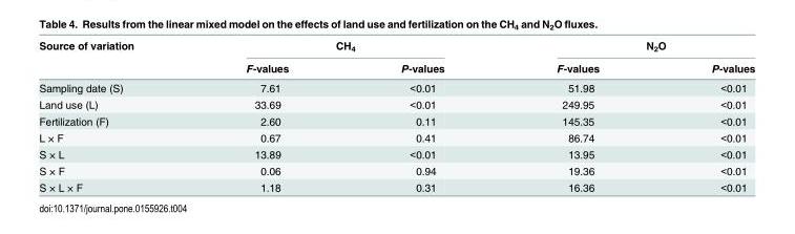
<table><thead><tr><td rowspan="2">Source of variation</td><td colspan="2">CH<sub>4</sub></td><td colspan="2">N<sub>2</sub>O</td></tr><tr><td>F-values</td><td>P-values</td><td>F-values</td><td>P-values</td></tr></thead><tbody><tr><td>Sampling date (S)</td><td>7.61</td><td>&lt;0.01</td><td>51.98</td><td>&lt;0.01</td></tr><tr><td>Land use (L)</td><td>33.69</td><td>&lt;0.01</td><td>249.95</td><td>&lt;0.01</td></tr><tr><td>Fertilization (F)</td><td>2.60</td><td>0.11</td><td>145.35</td><td>&lt;0.01</td></tr><tr><td>L × F</td><td>0.67</td><td>0.41</td><td>86.74</td><td>&lt;0.01</td></tr><tr><td>S × L</td><td>13.89</td><td>&lt;0.01</td><td>13.95</td><td>&lt;0.01</td></tr><tr><td>S × F</td><td>0.06</td><td>0.94</td><td>19.36</td><td>&lt;0.01</td></tr><tr><td>S × L × F</td><td>1.18</td><td>0.31</td><td>16.36</td><td>&lt;0.01</td></tr></tbody></table>